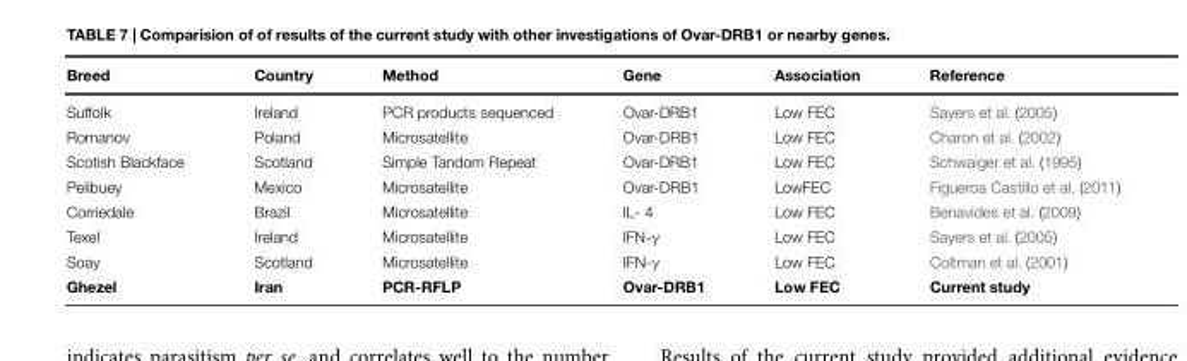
<table><thead><tr><td>Breed</td><td>Country</td><td>Method</td><td>Gene</td><td>Association</td><td>Reference</td></tr></thead><tbody><tr><td>Suffolk</td><td>Ireland</td><td>PCR products sequenced</td><td>Ovar-DRB1</td><td>Low FEC</td><td>Sayers et al. (2005)</td></tr><tr><td>Romanov</td><td>Poland</td><td>Microsatellite</td><td>Ovar-DRB1</td><td>Low FEC</td><td>Charon et al. (2002)</td></tr><tr><td>Scotish Blackface</td><td>Scotland</td><td>Simple Tandom Repeat</td><td>Ovar-DRB1</td><td>Low FEC</td><td>Schwaiger et al. (1995)</td></tr><tr><td>Pelibuey</td><td>Mexico</td><td>Microsatellite</td><td>Ovar-DRB1</td><td>LowFEC</td><td>Figueroa Castillo et al. (2011)</td></tr><tr><td>Corriedale</td><td>Brazil</td><td>Microsatellite</td><td>IL- 4</td><td>Low FEC</td><td>Benavides et al. (2009)</td></tr><tr><td>Texel</td><td>Ireland</td><td>Microsatellite</td><td>IFN-γ</td><td>Low FEC</td><td>Sayers et al. (2005)</td></tr><tr><td>Soay</td><td>Scotland</td><td>Microsatellite</td><td>IFN-γ</td><td>Low FEC</td><td>Coltman et al. (2001)</td></tr><tr><td>Ghezel</td><td>Iran</td><td>PCR-RFLP</td><td>Ovar-DRB1</td><td>Low FEC</td><td>Current study</td></tr></tbody></table>